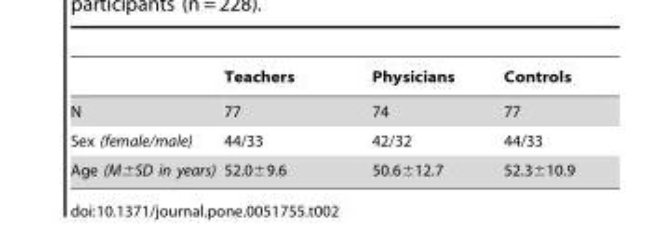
<table><thead><tr><td></td><td>Teachers</td><td>Physicians</td><td>Controls</td></tr></thead><tbody><tr><td>N</td><td>77</td><td>74</td><td>77</td></tr><tr><td>Sex (female/male)</td><td>44/33</td><td>42/32</td><td>44/33</td></tr><tr><td>Age (M±SD in years)</td><td>52.0±9.6</td><td>50.6±12.7</td><td>52.3±10.9</td></tr></tbody></table>